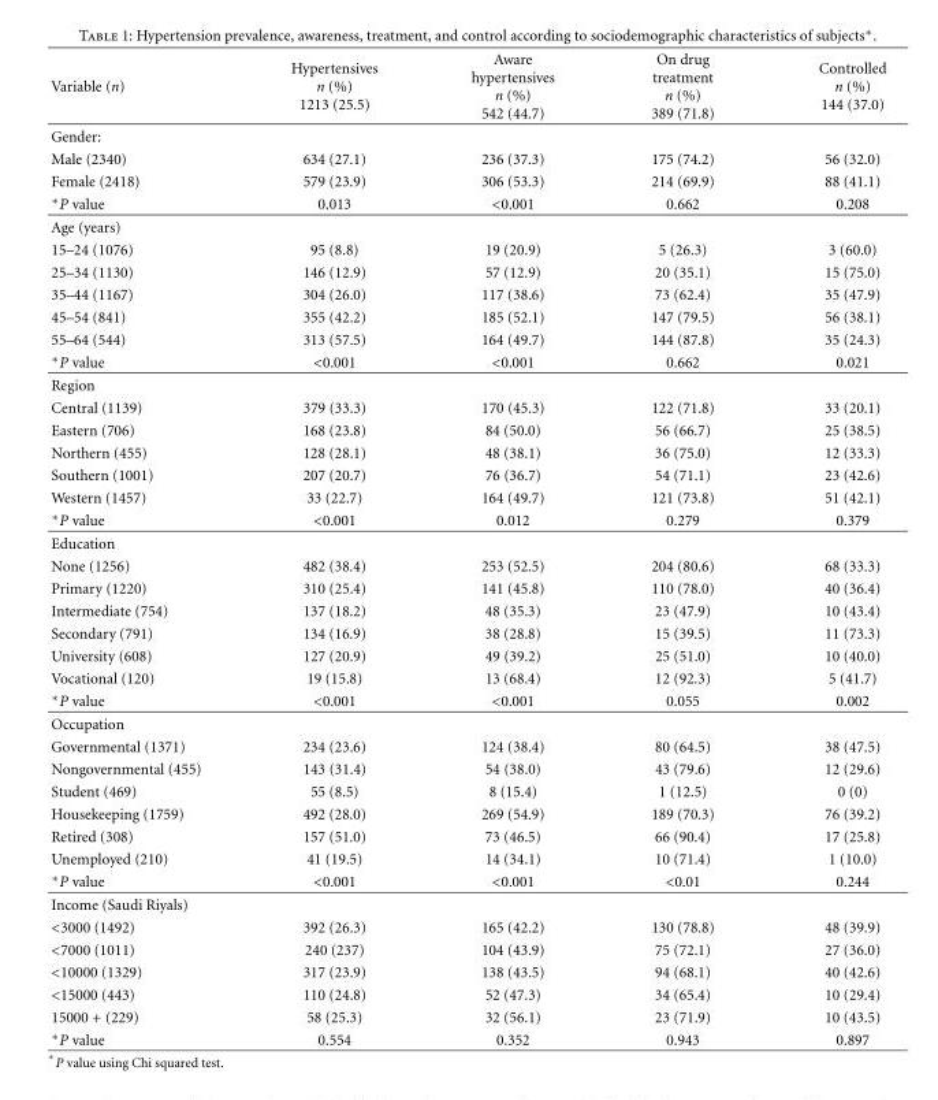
<table><thead><tr><td>Variable (n)</td><td>Hypertensives n (%) 1213 (25.5)</td><td>Aware hypertensives n (%) 542 (44.7)</td><td>On drug treatment n (%) 389 (71.8)</td><td>Controlled n (%) 144 (37.0)</td></tr></thead><tbody><tr><td colspan="5">Gender:</td></tr><tr><td>Male (2340)</td><td>634 (27.1)</td><td>236 (37.3)</td><td>175 (74.2)</td><td>56 (32.0)</td></tr><tr><td>Female (2418)</td><td>579 (23.9)</td><td>306 (53.3)</td><td>214 (69.9)</td><td>88 (41.1)</td></tr><tr><td>∗P value</td><td>0.013</td><td>&lt;0.001</td><td>0.662</td><td>0.208</td></tr><tr><td colspan="5">Age (years)</td></tr><tr><td>15–24 (1076)</td><td>95 (8.8)</td><td>19 (20.9)</td><td>5 (26.3)</td><td>3 (60.0)</td></tr><tr><td>25–34 (1130)</td><td>146 (12.9)</td><td>57 (12.9)</td><td>20 (35.1)</td><td>15 (75.0)</td></tr><tr><td>35–44 (1167)</td><td>304 (26.0)</td><td>117 (38.6)</td><td>73 (62.4)</td><td>35 (47.9)</td></tr><tr><td>45–54 (841)</td><td>355 (42.2)</td><td>185 (52.1)</td><td>147 (79.5)</td><td>56 (38.1)</td></tr><tr><td>55–64 (544)</td><td>313 (57.5)</td><td>164 (49.7)</td><td>144 (87.8)</td><td>35 (24.3)</td></tr><tr><td>∗P value</td><td>&lt;0.001</td><td>&lt;0.001</td><td>0.662</td><td>0.021</td></tr><tr><td colspan="5">Region</td></tr><tr><td>Central (1139)</td><td>379 (33.3)</td><td>170 (45.3)</td><td>122 (71.8)</td><td>33 (20.1)</td></tr><tr><td>Eastern (706)</td><td>168 (23.8)</td><td>84 (50.0)</td><td>56 (66.7)</td><td>25 (38.5)</td></tr><tr><td>Northern (455)</td><td>128 (28.1)</td><td>48 (38.1)</td><td>36 (75.0)</td><td>12 (33.3)</td></tr><tr><td>Southern (1001)</td><td>207 (20.7)</td><td>76 (36.7)</td><td>54 (71.1)</td><td>23 (42.6)</td></tr><tr><td>Western (1457)</td><td>33 (22.7)</td><td>164 (49.7)</td><td>121 (73.8)</td><td>51 (42.1)</td></tr><tr><td>∗P value</td><td>&lt;0.001</td><td>0.012</td><td>0.279</td><td>0.379</td></tr><tr><td colspan="5">Education</td></tr><tr><td>None (1256)</td><td>482 (38.4)</td><td>253 (52.5)</td><td>204 (80.6)</td><td>68 (33.3)</td></tr><tr><td>Primary (1220)</td><td>310 (25.4)</td><td>141 (45.8)</td><td>110 (78.0)</td><td>40 (36.4)</td></tr><tr><td>Intermediate (754)</td><td>137 (18.2)</td><td>48 (35.3)</td><td>23 (47.9)</td><td>10 (43.4)</td></tr><tr><td>Secondary (791)</td><td>134 (16.9)</td><td>38 (28.8)</td><td>15 (39.5)</td><td>11 (73.3)</td></tr><tr><td>University (608)</td><td>127 (20.9)</td><td>49 (39.2)</td><td>25 (51.0)</td><td>10 (40.0)</td></tr><tr><td>Vocational (120)</td><td>19 (15.8)</td><td>13 (68.4)</td><td>12 (92.3)</td><td>5 (41.7)</td></tr><tr><td>∗P value</td><td>&lt;0.001</td><td>&lt;0.001</td><td>0.055</td><td>0.002</td></tr><tr><td colspan="5">Occupation</td></tr><tr><td>Governmental (1371)</td><td>234 (23.6)</td><td>124 (38.4)</td><td>80 (64.5)</td><td>38 (47.5)</td></tr><tr><td>Nongovernmental (455)</td><td>143 (31.4)</td><td>54 (38.0)</td><td>43 (79.6)</td><td>12 (29.6)</td></tr><tr><td>Student (469)</td><td>55 (8.5)</td><td>8 (15.4)</td><td>1 (12.5)</td><td>0 (0)</td></tr><tr><td>Housekeeping (1759)</td><td>492 (28.0)</td><td>269 (54.9)</td><td>189 (70.3)</td><td>76 (39.2)</td></tr><tr><td>Retired (308)</td><td>157 (51.0)</td><td>73 (46.5)</td><td>66 (90.4)</td><td>17 (25.8)</td></tr><tr><td>Unemployed (210)</td><td>41 (19.5)</td><td>14 (34.1)</td><td>10 (71.4)</td><td>1 (10.0)</td></tr><tr><td>∗P value</td><td>&lt;0.001</td><td>&lt;0.001</td><td>&lt;0.01</td><td>0.244</td></tr><tr><td colspan="5">Income (Saudi Riyals)</td></tr><tr><td>&lt;3000 (1492)</td><td>392 (26.3)</td><td>165 (42.2)</td><td>130 (78.8)</td><td>48 (39.9)</td></tr><tr><td>&lt;7000 (1011)</td><td>240 (237)</td><td>104 (43.9)</td><td>75 (72.1)</td><td>27 (36.0)</td></tr><tr><td>&lt;10000 (1329)</td><td>317 (23.9)</td><td>138 (43.5)</td><td>94 (68.1)</td><td>40 (42.6)</td></tr><tr><td>&lt;15000 (443)</td><td>110 (24.8)</td><td>52 (47.3)</td><td>34 (65.4)</td><td>10 (29.4)</td></tr><tr><td>15000 + (229)</td><td>58 (25.3)</td><td>32 (56.1)</td><td>23 (71.9)</td><td>10 (43.5)</td></tr><tr><td>∗P value</td><td>0.554</td><td>0.352</td><td>0.943</td><td>0.897</td></tr></tbody></table>